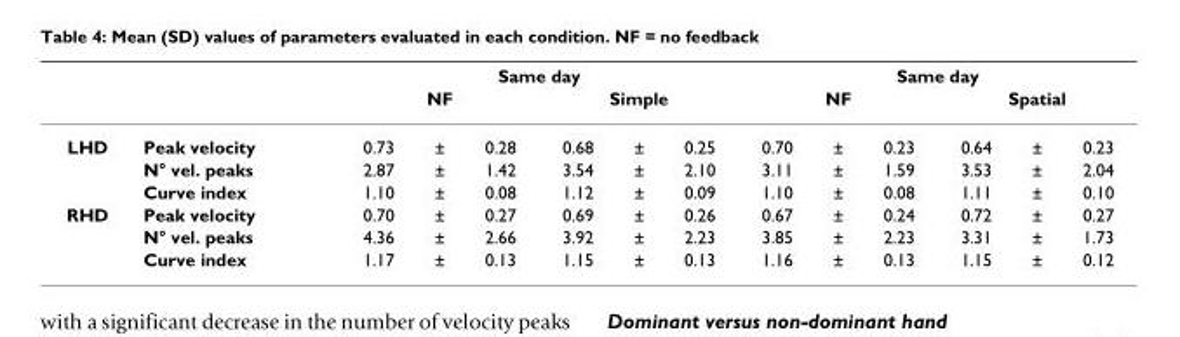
<table><thead><tr><td rowspan="3">LHD</td><td rowspan="3">Peak velocity</td><td colspan="6">Same day</td><td colspan="6">Same day</td></tr><tr><td colspan="3">NF</td><td colspan="3">Simple</td><td colspan="3">NF</td><td colspan="3">Spatial</td></tr><tr><td>0.73</td><td>±</td><td>0.28</td><td>0.68</td><td>±</td><td>0.25</td><td>0.70</td><td>±</td><td>0.23</td><td>0.64</td><td>±</td><td>0.23</td></tr></thead><tbody><tr><td></td><td>N° vel. peaks</td><td>2.87</td><td>±</td><td>1.42</td><td>3.54</td><td>±</td><td>2.10</td><td>3.11</td><td>±</td><td>1.59</td><td>3.53</td><td>±</td><td>2.04</td></tr><tr><td></td><td>Curve index</td><td>1.10</td><td>±</td><td>0.08</td><td>1.12</td><td>±</td><td>0.09</td><td>1.10</td><td>±</td><td>0.08</td><td>1.11</td><td>±</td><td>0.10</td></tr><tr><td rowspan="3">RHD</td><td>Peak velocity</td><td>0.70</td><td>±</td><td>0.27</td><td>0.69</td><td>±</td><td>0.26</td><td>0.67</td><td>±</td><td>0.24</td><td>0.72</td><td>±</td><td>0.27</td></tr><tr><td>N° vel. peaks</td><td>4.36</td><td>±</td><td>2.66</td><td>3.92</td><td>±</td><td>2.23</td><td>3.85</td><td>±</td><td>2.23</td><td>3.31</td><td>±</td><td>1.73</td></tr><tr><td>Curve index</td><td>1.17</td><td>±</td><td>0.13</td><td>1.15</td><td>±</td><td>0.13</td><td>1.16</td><td>±</td><td>0.13</td><td>1.15</td><td>±</td><td>0.12</td></tr></tbody></table>